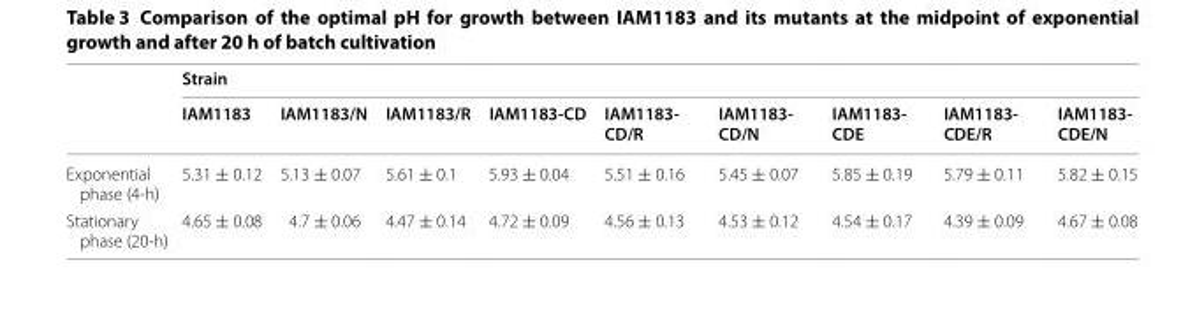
<table><thead><tr><td rowspan="2"></td><td colspan="9">Strain</td></tr><tr><td>IAM1183</td><td>IAM1183/N</td><td>IAM1183/R</td><td>IAM1183‑CD</td><td>IAM1183‑ CD/R</td><td>IAM1183‑ CD/N</td><td>IAM1183‑ CDE</td><td>IAM1183‑ CDE/R</td><td>IAM1183‑ CDE/N</td></tr></thead><tbody><tr><td>Exponential phase (4-h)</td><td>5.31 ± 0.12</td><td>5.13 ± 0.07</td><td>5.61 ± 0.1</td><td>5.93 ± 0.04</td><td>5.51 ± 0.16</td><td>5.45 ± 0.07</td><td>5.85 ± 0.19</td><td>5.79 ± 0.11</td><td>5.82 ± 0.15</td></tr><tr><td>Stationary phase (20-h)</td><td>4.65 ± 0.08</td><td>4.7 ± 0.06</td><td>4.47 ± 0.14</td><td>4.72 ± 0.09</td><td>4.56 ± 0.13</td><td>4.53 ± 0.12</td><td>4.54 ± 0.17</td><td>4.39 ± 0.09</td><td>4.67 ± 0.08</td></tr></tbody></table>